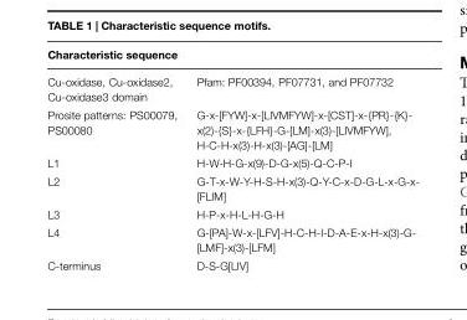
<table><thead><tr><td>Characteristic sequence</td><td></td></tr></thead><tbody><tr><td>Cu-oxidase, Cu-oxidase2, Cu-oxidase3 domain</td><td>Pfam: PF00394, PF07731, and PF07732</td></tr><tr><td>Prosite patterns: PS00079, PS00080</td><td>G-x-[FYW]-x-[LIVMFYW]-x-[CST]-x-{PR}-{K}- x(2)-{S}-x-{LFH}-G-[LM]-x(3)-[LIVMFYW], H-C-H-x(3)-H-x(3)-[AG]-[LM]</td></tr><tr><td>L1</td><td>H-W-H-G-x(9)-D-G-x(5)-Q-C-P-I</td></tr><tr><td>L2</td><td>G-T-x-W-Y-H-S-H-x(3)-Q-Y-C-x-D-G-L-x-G-x- [FLIM]</td></tr><tr><td>L3</td><td>H-P-x-H-L-H-G-H</td></tr><tr><td>L4</td><td>G-[PA]-W-x-[LFV]-H-C-H-I-D-A-E-x-H-x(3)-G- [LMF]-x(3)-[LFM]</td></tr><tr><td>C-terminus</td><td>D-S-G[LIV]</td></tr></tbody></table>